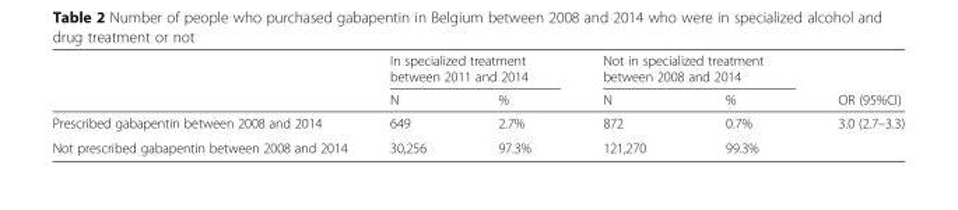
<table><thead><tr><td rowspan="2"></td><td colspan="2">In specialized treatment between 2011 and 2014</td><td colspan="2">Not in specialized treatment between 2008 and 2014</td><td rowspan="2">OR (95%CI)</td></tr><tr><td>N</td><td>%</td><td>N</td><td>%</td></tr></thead><tbody><tr><td>Prescribed gabapentin between 2008 and 2014</td><td>649</td><td>2.7%</td><td>872</td><td>0.7%</td><td>3.0 (2.7–3.3)</td></tr><tr><td>Not prescribed gabapentin between 2008 and 2014</td><td>30,256</td><td>97.3%</td><td>121,270</td><td>99.3%</td><td></td></tr></tbody></table>